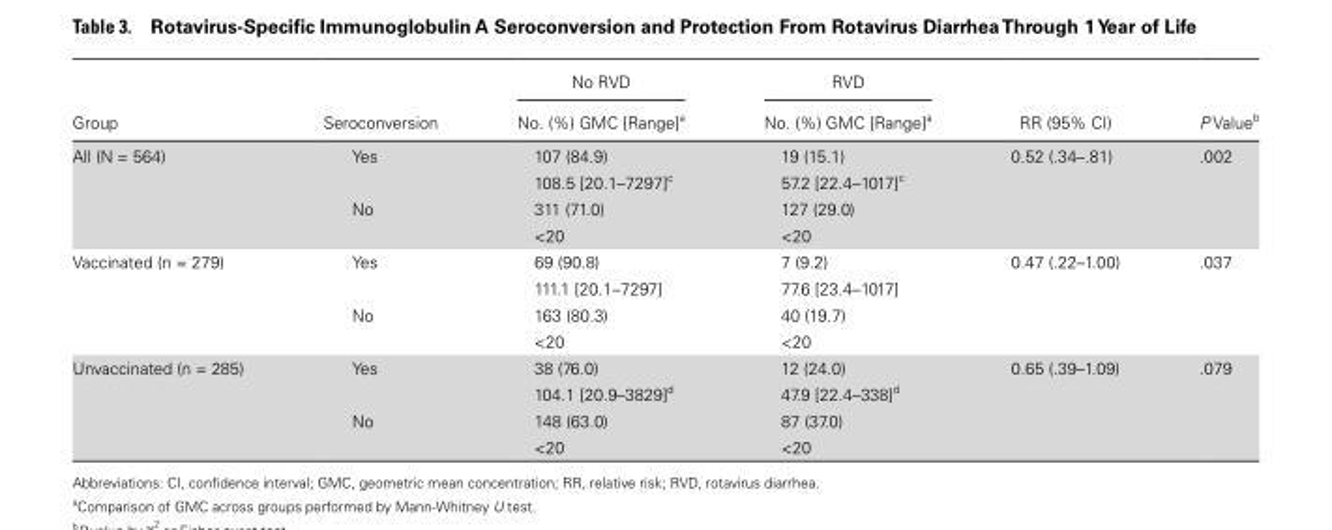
<table><thead><tr><td rowspan="2">Group</td><td rowspan="2">Seroconversion</td><td rowspan="2">No RVD No. (%) GMC [Range]<sup>a</sup></td><td rowspan="2">RVD No. (%) GMC [Range]<sup>a</sup></td><td rowspan="2">RR (95% CI)</td><td rowspan="2">P Value<sup>b</sup></td></tr><tr></tr></thead><tbody><tr><td rowspan="4">All (N = 564)</td><td rowspan="2">Yes</td><td>107 (84.9)</td><td>19 (15.1)</td><td rowspan="4">0.52 (.34–.81)</td><td rowspan="4">.002</td></tr><tr><td>108.5 [20.1–7297]<sup>c</sup></td><td>57.2 [22.4–1017]<sup>c</sup></td></tr><tr><td rowspan="2">No</td><td>311 (71.0)</td><td>127 (29.0)</td></tr><tr><td>&lt;20</td><td>&lt;20</td></tr><tr><td rowspan="4">Vaccinated (n = 279)</td><td rowspan="2">Yes</td><td>69 (90.8)</td><td>7 (9.2)</td><td rowspan="4">0.47 (.22–1.00)</td><td rowspan="4">.037</td></tr><tr><td>111.1 [20.1–7297]</td><td>77.6 [23.4–1017]</td></tr><tr><td rowspan="2">No</td><td>163 (80.3)</td><td>40 (19.7)</td></tr><tr><td>&lt;20</td><td>&lt;20</td></tr><tr><td rowspan="4">Unvaccinated (n = 285)</td><td rowspan="2">Yes</td><td>38 (76.0)</td><td>12 (24.0)</td><td rowspan="4">0.65 (.39–1.09)</td><td rowspan="4">.079</td></tr><tr><td>104.1 [20.9–3829]<sup>d</sup></td><td>47.9 [22.4–338]<sup>d</sup></td></tr><tr><td rowspan="2">No</td><td>148 (63.0)</td><td>87 (37.0)</td></tr><tr><td>&lt;20</td><td>&lt;20</td></tr></tbody></table>